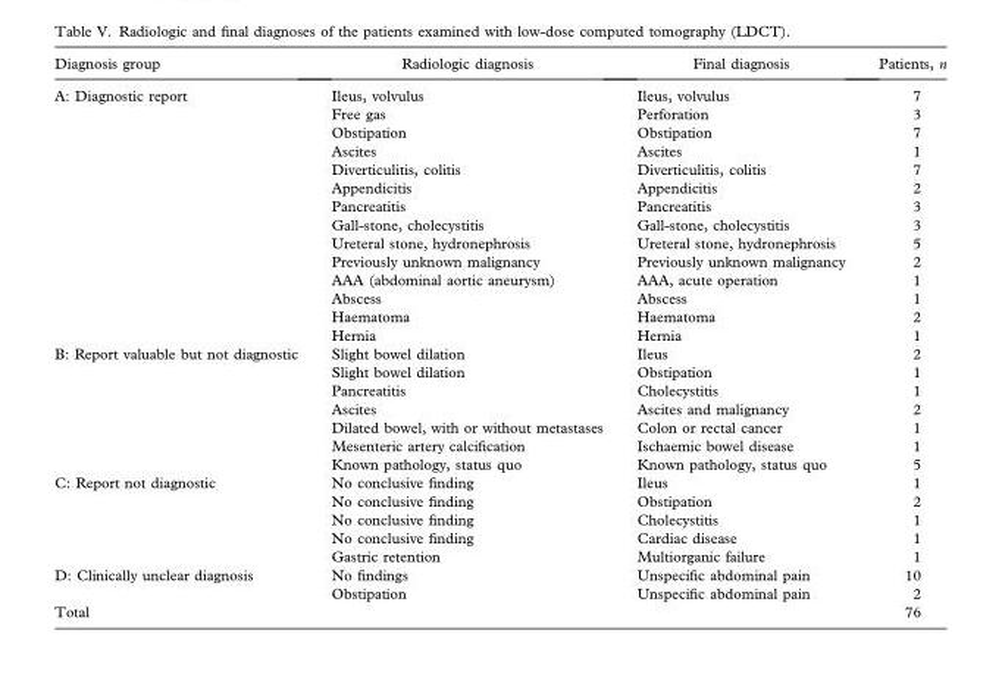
<table><thead><tr><td>Diagnosis group</td><td>Radiologic diagnosis</td><td>Final diagnosis</td><td>Patients, n</td></tr></thead><tbody><tr><td rowspan="14">A: Diagnostic report</td><td>Ileus, volvulus</td><td>Ileus, volvulus</td><td>7</td></tr><tr><td>Free gas</td><td>Perforation</td><td>3</td></tr><tr><td>Obstipation</td><td>Obstipation</td><td>7</td></tr><tr><td>Ascites</td><td>Ascites</td><td>1</td></tr><tr><td>Diverticulitis, colitis</td><td>Diverticulitis, colitis</td><td>7</td></tr><tr><td>Appendicitis</td><td>Appendicitis</td><td>2</td></tr><tr><td>Pancreatitis</td><td>Pancreatitis</td><td>3</td></tr><tr><td>Gall-stone, cholecystitis</td><td>Gall-stone, cholecystitis</td><td>3</td></tr><tr><td>Ureteral stone, hydronephrosis</td><td>Ureteral stone, hydronephrosis</td><td>5</td></tr><tr><td>Previously unknown malignancy</td><td>Previously unknown malignancy</td><td>2</td></tr><tr><td>AAA (abdominal aortic aneurysm)</td><td>AAA, acute operation</td><td>1</td></tr><tr><td>Abscess</td><td>Abscess</td><td>1</td></tr><tr><td>Haematoma</td><td>Haematoma</td><td>2</td></tr><tr><td>Hernia</td><td>Hernia</td><td>1</td></tr><tr><td rowspan="7">B: Report valuable but not diagnostic</td><td>Slight bowel dilation</td><td>Ileus</td><td>2</td></tr><tr><td>Slight bowel dilation</td><td>Obstipation</td><td>1</td></tr><tr><td>Pancreatitis</td><td>Cholecystitis</td><td>1</td></tr><tr><td>Ascites</td><td>Ascites and malignancy</td><td>2</td></tr><tr><td>Dilated bowel, with or without metastases</td><td>Colon or rectal cancer</td><td>1</td></tr><tr><td>Mesenteric artery calcification</td><td>Ischaemic bowel disease</td><td>1</td></tr><tr><td>Known pathology, status quo</td><td>Known pathology, status quo</td><td>5</td></tr><tr><td rowspan="5">C: Report not diagnostic</td><td>No conclusive finding</td><td>Ileus</td><td>1</td></tr><tr><td>No conclusive finding</td><td>Obstipation</td><td>2</td></tr><tr><td>No conclusive finding</td><td>Cholecystitis</td><td>1</td></tr><tr><td>No conclusive finding</td><td>Cardiac disease</td><td>1</td></tr><tr><td>Gastric retention</td><td>Multiorganic failure</td><td>1</td></tr><tr><td rowspan="2">D: Clinically unclear diagnosis</td><td>No findings</td><td>Unspecific abdominal pain</td><td>10</td></tr><tr><td>Obstipation</td><td>Unspecific abdominal pain</td><td>2</td></tr><tr><td>Total</td><td></td><td></td><td>76</td></tr></tbody></table>